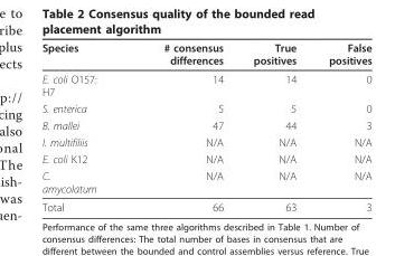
<table><thead><tr><td>Species</td><td># consensus differences</td><td>True positives</td><td>False positives</td></tr></thead><tbody><tr><td>E. coli O157: H7</td><td>14</td><td>14</td><td>0</td></tr><tr><td>S. enterica</td><td>5</td><td>5</td><td>0</td></tr><tr><td>B. mallei</td><td>47</td><td>44</td><td>3</td></tr><tr><td>I. multifiliis</td><td>N/A</td><td>N/A</td><td>N/A</td></tr><tr><td>E. coli K12</td><td>N/A</td><td>N/A</td><td>N/A</td></tr><tr><td>C. amycolatum</td><td>N/A</td><td>N/A</td><td>N/A</td></tr><tr><td>Total</td><td>66</td><td>63</td><td>3</td></tr></tbody></table>